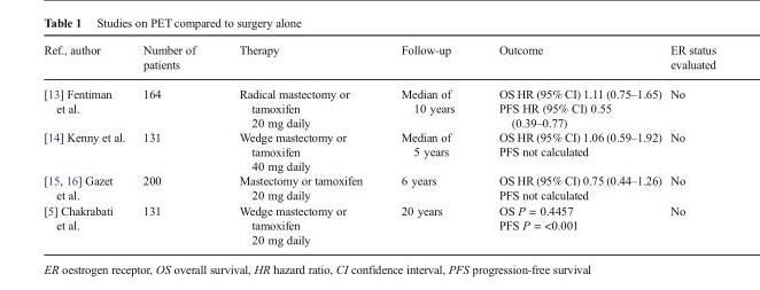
<table><thead><tr><td>Ref., author</td><td>Number of patients</td><td>Therapy</td><td>Follow-up</td><td>Outcome</td><td>ER status evaluated</td></tr></thead><tbody><tr><td>[13] Fentiman et al.</td><td>164</td><td>Radical mastectomy or tamoxifen 20 mg daily</td><td>Median of 10 years</td><td>OS HR (95% CI) 1.11 (0.75–1.65) PFS HR (95% CI) 0.55 (0.39–0.77)</td><td>No</td></tr><tr><td>[14] Kenny et al.</td><td>131</td><td>Wedge mastectomy or tamoxifen 40 mg daily</td><td>Median of 5 years</td><td>OS HR (95% CI) 1.06 (0.59–1.92) PFS not calculated</td><td>No</td></tr><tr><td>[15, 16] Gazet et al.</td><td>200</td><td>Mastectomy or tamoxifen 20 mg daily</td><td>6 years</td><td>OS HR (95% CI) 0.75 (0.44–1.26) PFS not calculated</td><td>No</td></tr><tr><td>[5] Chakrabati et al.</td><td>131</td><td>Wedge mastectomy or tamoxifen 20 mg daily</td><td>20 years</td><td>OS P = 0.4457 PFS P = &lt;0.001</td><td>No</td></tr></tbody></table>